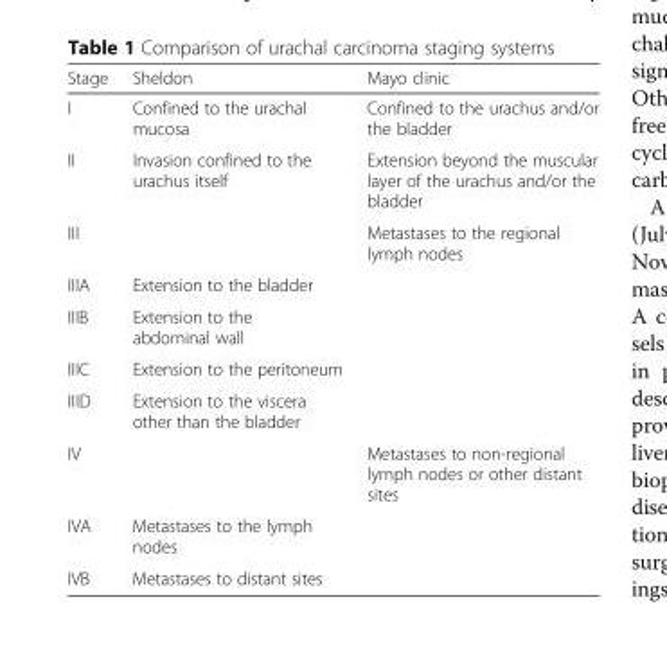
<table><thead><tr><td>Stage</td><td>Sheldon</td><td>Mayo clinic</td></tr></thead><tbody><tr><td>I</td><td>Confined to the urachal mucosa</td><td>Confined to the urachus and/or the bladder</td></tr><tr><td>II</td><td>Invasion confined to the urachus itself</td><td>Extension beyond the muscular layer of the urachus and/or the bladder</td></tr><tr><td>III</td><td></td><td>Metastases to the regional lymph nodes</td></tr><tr><td>IIIA</td><td>Extension to the bladder</td><td rowspan="4"></td></tr><tr><td>IIIB</td><td>Extension to the abdominal wall</td></tr><tr><td>IIIC</td><td>Extension to the peritoneum</td></tr><tr><td>IIID</td><td>Extension to the viscera other than the bladder</td></tr><tr><td>IV</td><td></td><td>Metastases to non-regional lymph nodes or other distant sites</td></tr><tr><td>IVA</td><td>Metastases to the lymph nodes</td><td rowspan="2"></td></tr><tr><td>IVB</td><td>Metastases to distant sites</td></tr></tbody></table>